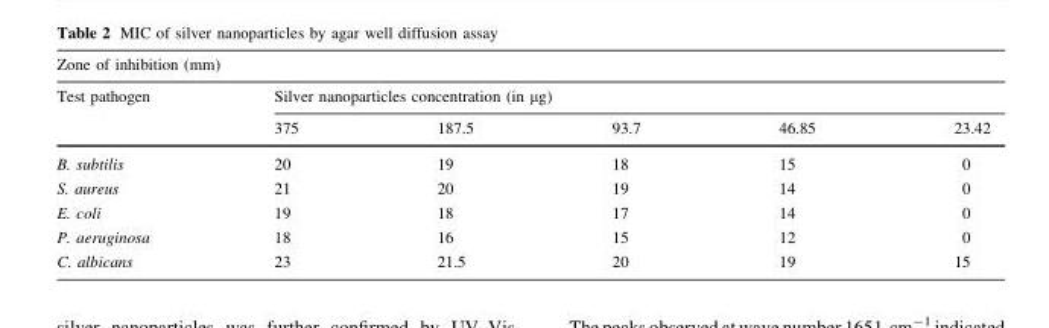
<table><thead><tr><td colspan="6">Zone of inhibition (mm)</td></tr><tr><td rowspan="2">Test pathogen</td><td colspan="5">Silver nanoparticles concentration (in μg)</td></tr><tr><td>375</td><td>187.5</td><td>93.7</td><td>46.85</td><td>23.42</td></tr></thead><tbody><tr><td>B. subtilis</td><td>20</td><td>19</td><td>18</td><td>15</td><td>0</td></tr><tr><td>S. aureus</td><td>21</td><td>20</td><td>19</td><td>14</td><td>0</td></tr><tr><td>E. coli</td><td>19</td><td>18</td><td>17</td><td>14</td><td>0</td></tr><tr><td>P. aeruginosa</td><td>18</td><td>16</td><td>15</td><td>12</td><td>0</td></tr><tr><td>C. albicans</td><td>23</td><td>21.5</td><td>20</td><td>19</td><td>15</td></tr></tbody></table>